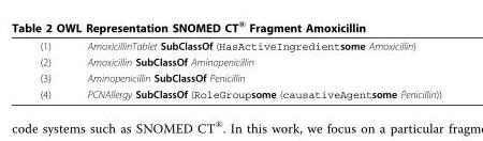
<table><tbody><tr><td>(1)</td><td>AmoxicillinTablet SubClassOf (HasActiveIngredientsome Amoxicillin)</td></tr><tr><td>(2)</td><td>Amoxicillin SubClassOf Aminopenicillin</td></tr><tr><td>(3)</td><td>Aminopenicillin SubClassOf Penicillin</td></tr><tr><td>(4)</td><td>PCNAllergy SubClassOf (RoleGroupsome (causativeAgentsome Penicillin))</td></tr></tbody></table>